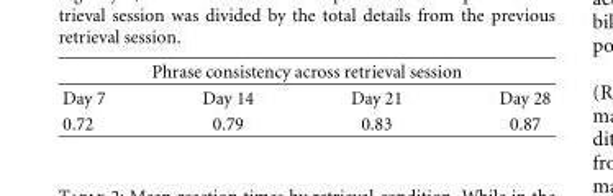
<table><thead><tr><td colspan="4">Phrase consistency across retrieval session</td></tr><tr><td>Day 7</td><td>Day 14</td><td>Day 21</td><td>Day 28</td></tr></thead><tbody><tr><td>0.72</td><td>0.79</td><td>0.83</td><td>0.87</td></tr></tbody></table>